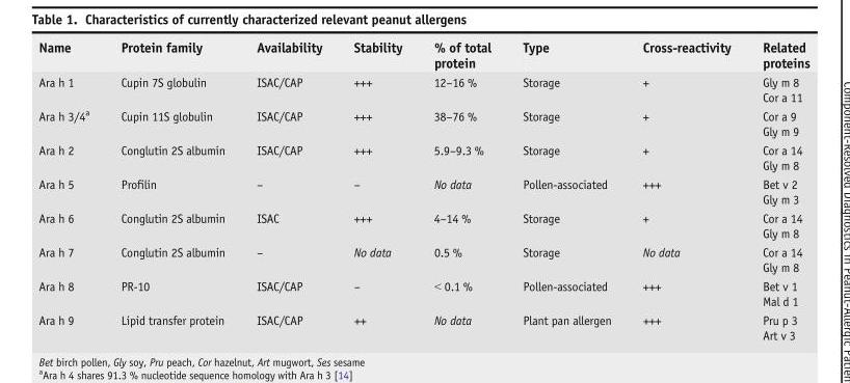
<table><thead><tr><td>Name</td><td>Protein family</td><td>Availability</td><td>Stability</td><td>% of total protein</td><td>Type</td><td>Cross-reactivity</td><td>Related proteins</td></tr></thead><tbody><tr><td>Ara h 1</td><td>Cupin 7S globulin</td><td>ISAC/CAP</td><td>+++</td><td>12–16 %</td><td>Storage</td><td>+</td><td>Gly m 8 Cor a 11</td></tr><tr><td>Ara h 3/4<sup>a</sup></td><td>Cupin 11S globulin</td><td>ISAC/CAP</td><td>+++</td><td>38–76 %</td><td>Storage</td><td>+</td><td>Cor a 9 Gly m 9</td></tr><tr><td>Ara h 2</td><td>Conglutin 2S albumin</td><td>ISAC/CAP</td><td>+++</td><td>5.9–9.3 %</td><td>Storage</td><td>+</td><td>Cor a 14 Gly m 8</td></tr><tr><td>Ara h 5</td><td>Profilin</td><td>–</td><td>–</td><td>No data</td><td>Pollen-associated</td><td>+++</td><td>Bet v 2 Gly m 3</td></tr><tr><td>Ara h 6</td><td>Conglutin 2S albumin</td><td>ISAC</td><td>+++</td><td>4–14 %</td><td>Storage</td><td>+</td><td>Cor a 14 Gly m 8</td></tr><tr><td>Ara h 7</td><td>Conglutin 2S albumin</td><td>–</td><td>No data</td><td>0.5 %</td><td>Storage</td><td>No data</td><td>Cor a 14 Gly m 8</td></tr><tr><td>Ara h 8</td><td>PR-10</td><td>ISAC/CAP</td><td>–</td><td>&lt; 0.1 %</td><td>Pollen-associated</td><td>+++</td><td>Bet v 1 Mal d 1</td></tr><tr><td>Ara h 9</td><td>Lipid transfer protein</td><td>ISAC/CAP</td><td>++</td><td>No data</td><td>Plant pan allergen</td><td>+++</td><td>Pru p 3 Art v 3</td></tr></tbody></table>